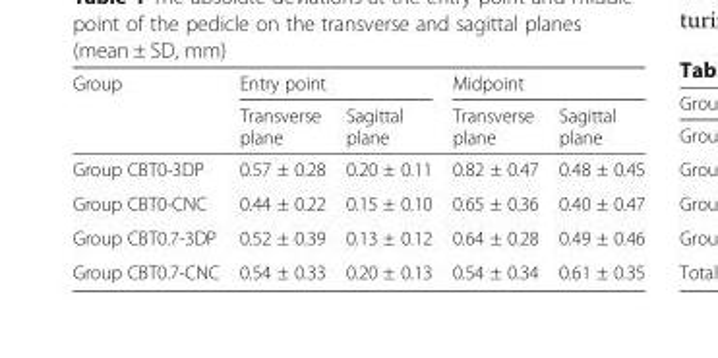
<table><thead><tr><td rowspan="2">Group</td><td colspan="2">Entry point</td><td colspan="2">Midpoint</td></tr><tr><td>Transverse plane</td><td>Sagittal plane</td><td>Transverse plane</td><td>Sagittal plane</td></tr></thead><tbody><tr><td>Group CBT0-3DP</td><td>0.57 ± 0.28</td><td>0.20 ± 0.11</td><td>0.82 ± 0.47</td><td>0.48 ± 0.45</td></tr><tr><td>Group CBT0-CNC</td><td>0.44 ± 0.22</td><td>0.15 ± 0.10</td><td>0.65 ± 0.36</td><td>0.40 ± 0.47</td></tr><tr><td>Group CBT0.7-3DP</td><td>0.52 ± 0.39</td><td>0.13 ± 0.12</td><td>0.64 ± 0.28</td><td>0.49 ± 0.46</td></tr><tr><td>Group CBT0.7-CNC</td><td>0.54 ± 0.33</td><td>0.20 ± 0.13</td><td>0.54 ± 0.34</td><td>0.61 ± 0.35</td></tr></tbody></table>